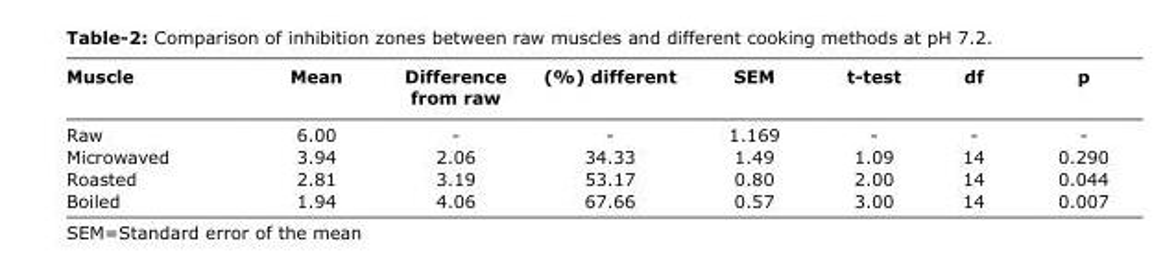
<table><thead><tr><td>Muscle</td><td>Mean</td><td>Difference from raw</td><td>(%) different</td><td>SEM</td><td>t-test</td><td>df</td><td>p</td></tr></thead><tbody><tr><td>Raw</td><td>6.00</td><td>-</td><td>-</td><td>1.169</td><td>-</td><td>-</td><td>-</td></tr><tr><td>Microwaved</td><td>3.94</td><td>2.06</td><td>34.33</td><td>1.49</td><td>1.09</td><td>14</td><td>0.290</td></tr><tr><td>Roasted</td><td>2.81</td><td>3.19</td><td>53.17</td><td>0.80</td><td>2.00</td><td>14</td><td>0.044</td></tr><tr><td>Boiled</td><td>1.94</td><td>4.06</td><td>67.66</td><td>0.57</td><td>3.00</td><td>14</td><td>0.007</td></tr></tbody></table>